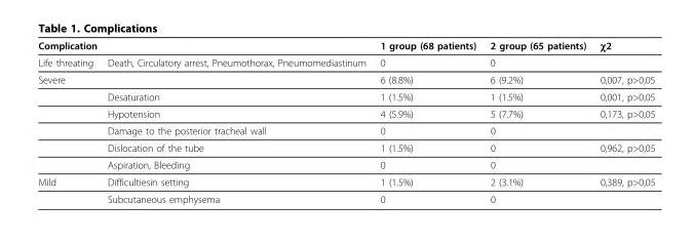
<table><thead><tr><td colspan="2">Complication</td><td rowspan="2">1 group (68 patients) 0</td><td rowspan="2">2 group (65 patients) 0</td><td rowspan="2">χ2</td></tr><tr><td>Life threating</td><td>Death, Circulatory arrest, Pneumothorax, Pneumomediastinum</td></tr></thead><tbody><tr><td colspan="2">Severe</td><td>6 (8.8%)</td><td>6 (9.2%)</td><td>0,007, p&gt;0,05</td></tr><tr><td></td><td>Desaturation</td><td>1 (1.5%)</td><td>1 (1.5%)</td><td>0,001, p&gt;0,05</td></tr><tr><td></td><td>Hypotension</td><td>4 (5.9%)</td><td>5 (7.7%)</td><td>0,173, p&gt;0,05</td></tr><tr><td></td><td>Damage to the posterior tracheal wall</td><td>0</td><td>0</td><td></td></tr><tr><td></td><td>Dislocation of the tube</td><td>1 (1.5%)</td><td>0</td><td>0,962, p&gt;0,05</td></tr><tr><td></td><td>Aspiration, Bleeding</td><td>0</td><td>0</td><td></td></tr><tr><td rowspan="2">Mild</td><td>Difficultiesin setting</td><td>1 (1.5%)</td><td>2 (3.1%)</td><td>0,389, p&gt;0,05</td></tr><tr><td>Subcutaneous emphysema</td><td>0</td><td>0</td><td></td></tr></tbody></table>